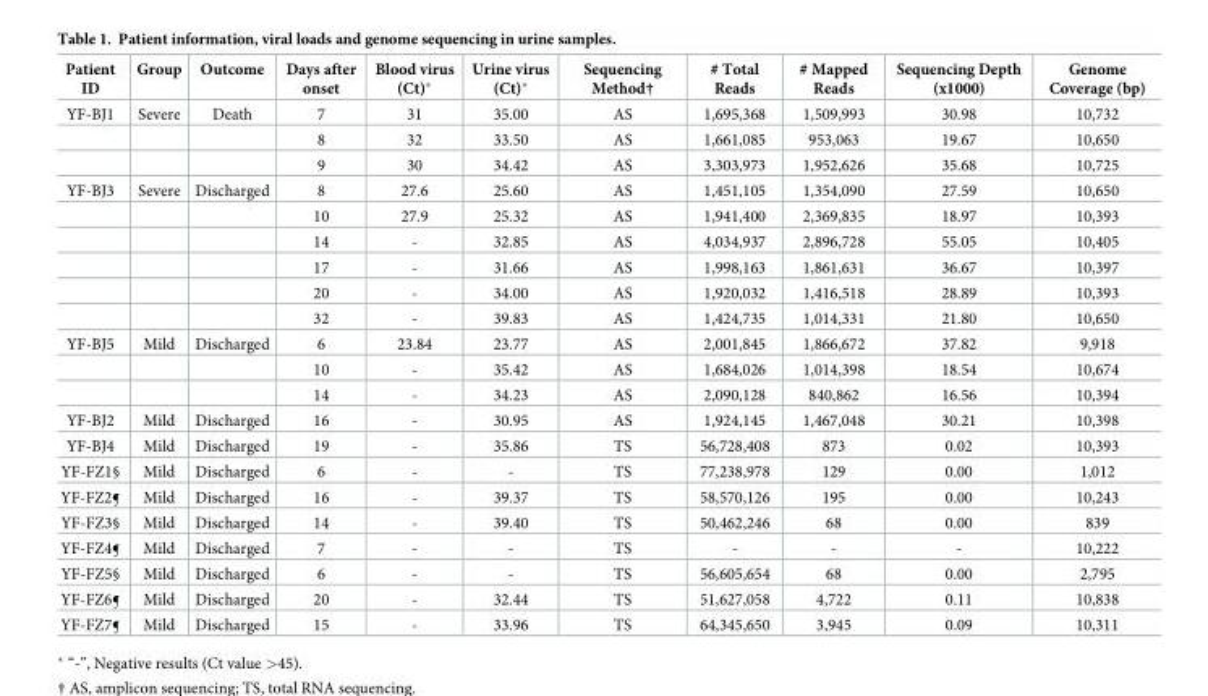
<table><thead><tr><td>Patient ID</td><td>Group</td><td>Outcome</td><td>Days after onset</td><td>Blood virus (Ct)*</td><td>Urine virus (Ct)*</td><td>Sequencing Method†</td><td># Total Reads</td><td># Mapped Reads</td><td>Sequencing Depth (x1000)</td><td>Genome Coverage (bp)</td></tr></thead><tbody><tr><td rowspan="3">YF-BJ1</td><td>Severe</td><td>Death</td><td>7</td><td>31</td><td>35.00</td><td>AS</td><td>1,695,368</td><td>1,509,993</td><td>30.98</td><td>10,732</td></tr><tr><td></td><td></td><td>8</td><td>32</td><td>33.50</td><td>AS</td><td>1,661,085</td><td>953,063</td><td>19.67</td><td>10,650</td></tr><tr><td></td><td></td><td>9</td><td>30</td><td>34.42</td><td>AS</td><td>3,303,973</td><td>1,952,626</td><td>35.68</td><td>10,725</td></tr><tr><td rowspan="6">YF-BJ3</td><td>Severe</td><td>Discharged</td><td>8</td><td>27.6</td><td>25.60</td><td>AS</td><td>1,451,105</td><td>1,354,090</td><td>27.59</td><td>10,650</td></tr><tr><td></td><td></td><td>10</td><td>27.9</td><td>25.32</td><td>AS</td><td>1,941,400</td><td>2,369,835</td><td>18.97</td><td>10,393</td></tr><tr><td></td><td></td><td>14</td><td>-</td><td>32.85</td><td>AS</td><td>4,034,937</td><td>2,896,728</td><td>55.05</td><td>10,405</td></tr><tr><td></td><td></td><td>17</td><td>-</td><td>31.66</td><td>AS</td><td>1,998,163</td><td>1,861,631</td><td>36.67</td><td>10,397</td></tr><tr><td></td><td></td><td>20</td><td>-</td><td>34.00</td><td>AS</td><td>1,920,032</td><td>1,416,518</td><td>28.89</td><td>10,393</td></tr><tr><td></td><td></td><td>32</td><td>-</td><td>39.83</td><td>AS</td><td>1,424,735</td><td>1,014,331</td><td>21.80</td><td>10,650</td></tr><tr><td rowspan="3">YF-BJ5</td><td>Mild</td><td>Discharged</td><td>6</td><td>23.84</td><td>23.77</td><td>AS</td><td>2,001,845</td><td>1,866,672</td><td>37.82</td><td>9,918</td></tr><tr><td></td><td></td><td>10</td><td>-</td><td>35.42</td><td>AS</td><td>1,684,026</td><td>1,014,398</td><td>18.54</td><td>10,674</td></tr><tr><td></td><td></td><td>14</td><td>-</td><td>34.23</td><td>AS</td><td>2,090,128</td><td>840,862</td><td>16.56</td><td>10,394</td></tr><tr><td>YF-BJ2</td><td>Mild</td><td>Discharged</td><td>16</td><td>-</td><td>30.95</td><td>AS</td><td>1,924,145</td><td>1,467,048</td><td>30.21</td><td>10,398</td></tr><tr><td>YF-BJ4</td><td>Mild</td><td>Discharged</td><td>19</td><td>-</td><td>35.86</td><td>TS</td><td>56,728,408</td><td>873</td><td>0.02</td><td>10,393</td></tr><tr><td>YF-FZ1§</td><td>Mild</td><td>Discharged</td><td>6</td><td>-</td><td>-</td><td>TS</td><td>77,238,978</td><td>129</td><td>0.00</td><td>1,012</td></tr><tr><td>YF-FZ2¶</td><td>Mild</td><td>Discharged</td><td>16</td><td>-</td><td>39.37</td><td>TS</td><td>58,570,126</td><td>195</td><td>0.00</td><td>10,243</td></tr><tr><td>YF-FZ3§</td><td>Mild</td><td>Discharged</td><td>14</td><td>-</td><td>39.40</td><td>TS</td><td>50,462,246</td><td>68</td><td>0.00</td><td>839</td></tr><tr><td>YF-FZ4¶</td><td>Mild</td><td>Discharged</td><td>7</td><td>-</td><td>-</td><td>TS</td><td>-</td><td>-</td><td>-</td><td>10,222</td></tr><tr><td>YF-FZ5§</td><td>Mild</td><td>Discharged</td><td>6</td><td>-</td><td>-</td><td>TS</td><td>56,605,654</td><td>68</td><td>0.00</td><td>2,795</td></tr><tr><td>YF-FZ6¶</td><td>Mild</td><td>Discharged</td><td>20</td><td>-</td><td>32.44</td><td>TS</td><td>51,627,058</td><td>4,722</td><td>0.11</td><td>10,838</td></tr><tr><td>YF-FZ7¶</td><td>Mild</td><td>Discharged</td><td>15</td><td>-</td><td>33.96</td><td>TS</td><td>64,345,650</td><td>3,945</td><td>0.09</td><td>10,311</td></tr></tbody></table>